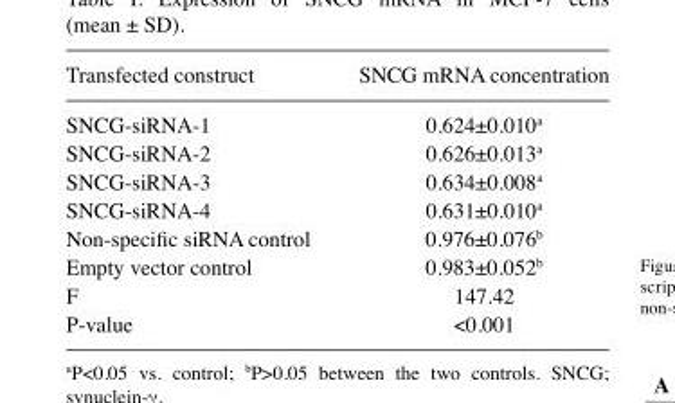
<table><thead><tr><td>Transfected construct</td><td>SNCG mRNA concentration</td></tr></thead><tbody><tr><td>SNCG-siRNA-1</td><td>0.624±0.010<sup>a</sup></td></tr><tr><td>SNCG-siRNA-2</td><td>0.626±0.013<sup>a</sup></td></tr><tr><td>SNCG-siRNA-3</td><td>0.634±0.008<sup>a</sup></td></tr><tr><td>SNCG-siRNA-4</td><td>0.631±0.010<sup>a</sup></td></tr><tr><td>Non‑specific siRNA control</td><td>0.976±0.076<sup>b</sup></td></tr><tr><td>Empty vector control</td><td>0.983±0.052<sup>b</sup></td></tr><tr><td>F</td><td>147.42</td></tr><tr><td>P-value</td><td>&lt;0.001</td></tr></tbody></table>